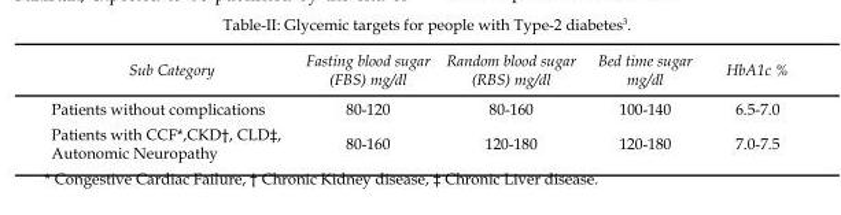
<table><thead><tr><td>Sub Category</td><td>Fasting blood sugar (FBS) mg/dl</td><td>Random blood sugar (RBS) mg/dl</td><td>Bed time sugar mg/dl</td><td>HbA1c %</td></tr></thead><tbody><tr><td>Patients without complications</td><td>80-120</td><td>80-160</td><td>100-140</td><td>6.5-7.0</td></tr><tr><td>Patients with CCF*,CKD†, CLD‡, Autonomic Neuropathy</td><td>80-160</td><td>120-180</td><td>120-180</td><td>7.0-7.5</td></tr></tbody></table>